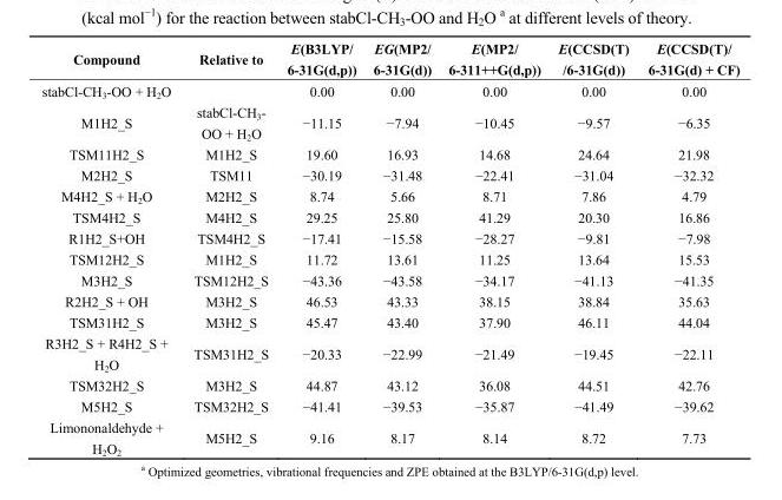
<table><thead><tr><td>Compound</td><td>Relative to</td><td>E(B3LYP/ 6-31G(d,p))</td><td>EG(MP2/ 6-31G(d))</td><td>E(MP2/ 6-311++G(d,p))</td><td>E(CCSD(T) /6-31G(d))</td><td>E(CCSD(T)/ 6-31G(d) + CF)</td></tr></thead><tbody><tr><td>stabCl-CH<sub>3</sub>-OO + H<sub>2</sub>O</td><td></td><td>0.00</td><td>0.00</td><td>0.00</td><td>0.00</td><td>0.00</td></tr><tr><td>M1H2_S</td><td>stabCl-CH<sub>3</sub>- OO + H<sub>2</sub>O</td><td>−11.15</td><td>−7.94</td><td>−10.45</td><td>−9.57</td><td>−6.35</td></tr><tr><td>TSM11H2_S</td><td>M1H2_S</td><td>19.60</td><td>16.93</td><td>14.68</td><td>24.64</td><td>21.98</td></tr><tr><td>M2H2_S</td><td>TSM11</td><td>−30.19</td><td>−31.48</td><td>−22.41</td><td>−31.04</td><td>−32.32</td></tr><tr><td>M4H2_S + H<sub>2</sub>O</td><td>M2H2_S</td><td>8.74</td><td>5.66</td><td>8.71</td><td>7.86</td><td>4.79</td></tr><tr><td>TSM4H2_S</td><td>M4H2_S</td><td>29.25</td><td>25.80</td><td>41.29</td><td>20.30</td><td>16.86</td></tr><tr><td>R1H2_S+OH</td><td>TSM4H2_S</td><td>−17.41</td><td>−15.58</td><td>−28.27</td><td>−9.81</td><td>−7.98</td></tr><tr><td>TSM12H2_S</td><td>M1H2_S</td><td>11.72</td><td>13.61</td><td>11.25</td><td>13.64</td><td>15.53</td></tr><tr><td>M3H2_S</td><td>TSM12H2_S</td><td>−43.36</td><td>−43.58</td><td>−34.17</td><td>−41.13</td><td>−41.35</td></tr><tr><td>R2H2_S + OH</td><td>M3H2_S</td><td>46.53</td><td>43.33</td><td>38.15</td><td>38.84</td><td>35.63</td></tr><tr><td>TSM31H2_S</td><td>M3H2_S</td><td>45.47</td><td>43.40</td><td>37.90</td><td>46.11</td><td>44.04</td></tr><tr><td>R3H2_S + R4H2_S + H<sub>2</sub>O</td><td>TSM31H2_S</td><td>−20.33</td><td>−22.99</td><td>−21.49</td><td>−19.45</td><td>−22.11</td></tr><tr><td>TSM32H2_S</td><td>M3H2_S</td><td>44.87</td><td>43.12</td><td>36.08</td><td>44.51</td><td>42.76</td></tr><tr><td>M5H2_S</td><td>TSM32H2_S</td><td>−41.41</td><td>−39.53</td><td>−35.87</td><td>−41.49</td><td>−39.62</td></tr><tr><td>Limononaldehyde + H<sub>2</sub>O<sub>2</sub></td><td>M5H2_S</td><td>9.16</td><td>8.17</td><td>8.14</td><td>8.72</td><td>7.73</td></tr></tbody></table>